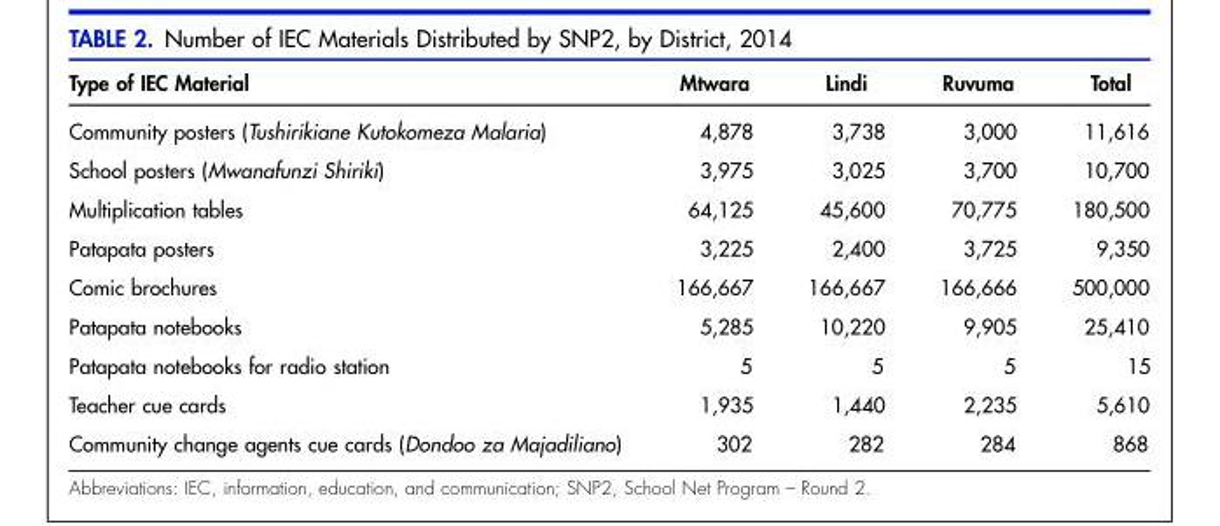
<table><thead><tr><td>Type of IEC Material</td><td>Mtwara</td><td>Lindi</td><td>Ruvuma</td><td>Total</td></tr></thead><tbody><tr><td>Community posters (Tushirikiane Kutokomeza Malaria)</td><td>4,878</td><td>3,738</td><td>3,000</td><td>11,616</td></tr><tr><td>School posters (Mwanafunzi Shiriki)</td><td>3,975</td><td>3,025</td><td>3,700</td><td>10,700</td></tr><tr><td>Multiplication tables</td><td>64,125</td><td>45,600</td><td>70,775</td><td>180,500</td></tr><tr><td>Patapata posters</td><td>3,225</td><td>2,400</td><td>3,725</td><td>9,350</td></tr><tr><td>Comic brochures</td><td>166,667</td><td>166,667</td><td>166,666</td><td>500,000</td></tr><tr><td>Patapata notebooks</td><td>5,285</td><td>10,220</td><td>9,905</td><td>25,410</td></tr><tr><td>Patapata notebooks for radio station</td><td>5</td><td>5</td><td>5</td><td>15</td></tr><tr><td>Teacher cue cards</td><td>1,935</td><td>1,440</td><td>2,235</td><td>5,610</td></tr><tr><td>Community change agents cue cards (Dondoo za Majadiliano)</td><td>302</td><td>282</td><td>284</td><td>868</td></tr></tbody></table>